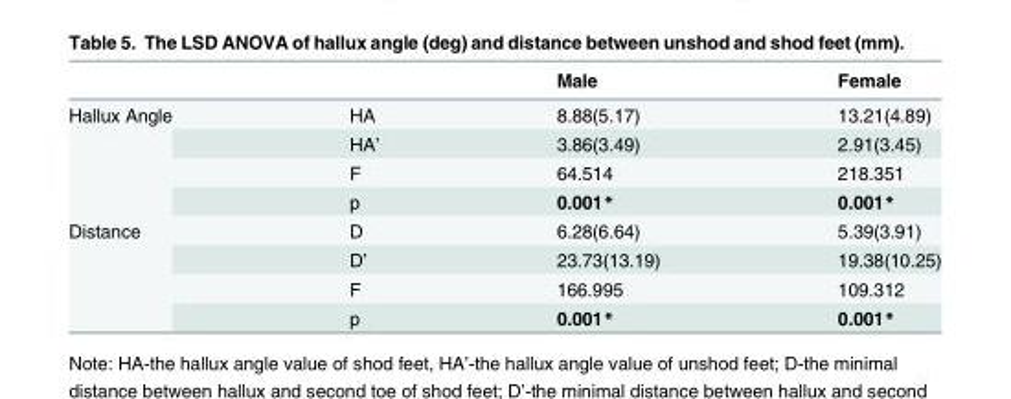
<table><thead><tr><td></td><td></td><td>Male</td><td>Female</td></tr></thead><tbody><tr><td rowspan="4">Hallux Angle</td><td>HA</td><td>8.88(5.17)</td><td>13.21(4.89)</td></tr><tr><td>HA’</td><td>3.86(3.49)</td><td>2.91(3.45)</td></tr><tr><td>F</td><td>64.514</td><td>218.351</td></tr><tr><td>p</td><td>0.001*</td><td>0.001*</td></tr><tr><td rowspan="4">Distance</td><td>D</td><td>6.28(6.64)</td><td>5.39(3.91)</td></tr><tr><td>D’</td><td>23.73(13.19)</td><td>19.38(10.25)</td></tr><tr><td>F</td><td>166.995</td><td>109.312</td></tr><tr><td>p</td><td>0.001*</td><td>0.001*</td></tr></tbody></table>